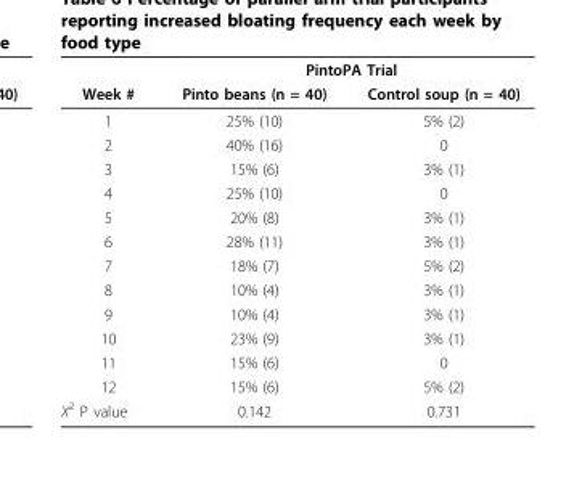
<table><thead><tr><td rowspan="2">Week #</td><td colspan="2">PintoPA Trial</td></tr><tr><td>Pinto beans (n = 40)</td><td>Control soup (n = 40)</td></tr></thead><tbody><tr><td>1</td><td>25% (10)</td><td>5% (2)</td></tr><tr><td>2</td><td>40% (16)</td><td>0</td></tr><tr><td>3</td><td>15% (6)</td><td>3% (1)</td></tr><tr><td>4</td><td>25% (10)</td><td>0</td></tr><tr><td>5</td><td>20% (8)</td><td>3% (1)</td></tr><tr><td>6</td><td>28% (11)</td><td>3% (1)</td></tr><tr><td>7</td><td>18% (7)</td><td>5% (2)</td></tr><tr><td>8</td><td>10% (4)</td><td>3% (1)</td></tr><tr><td>9</td><td>10% (4)</td><td>3% (1)</td></tr><tr><td>10</td><td>23% (9)</td><td>3% (1)</td></tr><tr><td>11</td><td>15% (6)</td><td>0</td></tr><tr><td>12</td><td>15% (6)</td><td>5% (2)</td></tr><tr><td>X<sup>2</sup> P value</td><td>0.142</td><td>0.731</td></tr></tbody></table>